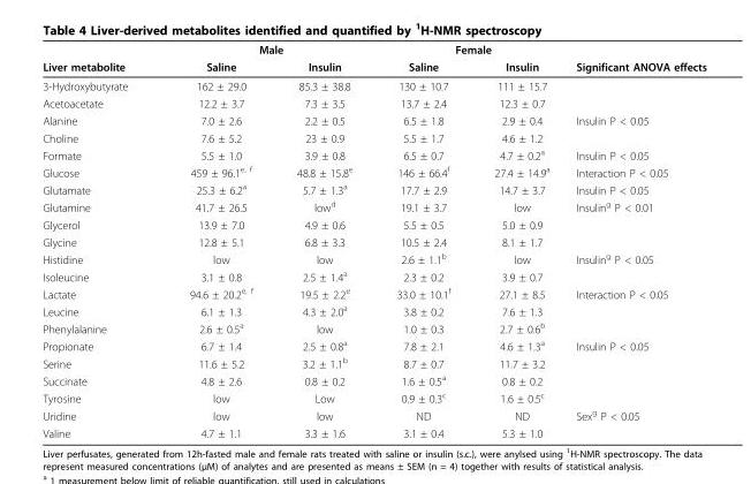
<table><thead><tr><td rowspan="2">Liver metabolite</td><td colspan="2">Male</td><td colspan="2">Female</td><td rowspan="2">Significant ANOVA effects</td></tr><tr><td>Saline</td><td>Insulin</td><td>Saline</td><td>Insulin</td></tr></thead><tbody><tr><td>3-Hydroxybutyrate</td><td>162 ± 29.0</td><td>85.3 ± 38.8</td><td>130 ± 10.7</td><td>111 ± 15.7</td><td></td></tr><tr><td>Acetoacetate</td><td>12.2 ± 3.7</td><td>7.3 ± 3.5</td><td>13.7 ± 2.4</td><td>12.3 ± 0.7</td><td></td></tr><tr><td>Alanine</td><td>7.0 ± 2.6</td><td>2.2 ± 0.5</td><td>6.5 ± 1.8</td><td>2.9 ± 0.4</td><td>Insulin P &lt; 0.05</td></tr><tr><td>Choline</td><td>7.6 ± 5.2</td><td>23 ± 0.9</td><td>5.5 ± 1.7</td><td>4.6 ± 1.2</td><td></td></tr><tr><td>Formate</td><td>5.5 ± 1.0</td><td>3.9 ± 0.8</td><td>6.5 ± 0.7</td><td>4.7 ± 0.2<sup>a</sup></td><td>Insulin P &lt; 0.05</td></tr><tr><td>Glucose</td><td>459 ± 96.1<sup>e, f</sup></td><td>48.8 ± 15.8<sup>e</sup></td><td>146 ± 66.4<sup>f</sup></td><td>27.4 ± 14.9<sup>a</sup></td><td>Interaction P &lt; 0.05</td></tr><tr><td>Glutamate</td><td>25.3 ± 6.2<sup>a</sup></td><td>5.7 ± 1.3<sup>a</sup></td><td>17.7 ± 2.9</td><td>14.7 ± 3.7</td><td>Insulin P &lt; 0.05</td></tr><tr><td>Glutamine</td><td>41.7 ± 26.5</td><td>low<sup>d</sup></td><td>19.1 ± 3.7</td><td>low</td><td>Insulin<sup>g</sup> P &lt; 0.01</td></tr><tr><td>Glycerol</td><td>13.9 ± 7.0</td><td>4.9 ± 0.6</td><td>5.5 ± 0.5</td><td>5.0 ± 0.9</td><td></td></tr><tr><td>Glycine</td><td>12.8 ± 5.1</td><td>6.8 ± 3.3</td><td>10.5 ± 2.4</td><td>8.1 ± 1.7</td><td></td></tr><tr><td>Histidine</td><td>low</td><td>low</td><td>2.6 ± 1.1<sup>b</sup></td><td>low</td><td>Insulin<sup>g</sup> P &lt; 0.05</td></tr><tr><td>Isoleucine</td><td>3.1 ± 0.8</td><td>2.5 ± 1.4<sup>a</sup></td><td>2.3 ± 0.2</td><td>3.9 ± 0.7</td><td></td></tr><tr><td>Lactate</td><td>94.6 ± 20.2<sup>e, f</sup></td><td>19.5 ± 2.2<sup>e</sup></td><td>33.0 ± 10.1<sup>f</sup></td><td>27.1 ± 8.5</td><td>Interaction P &lt; 0.05</td></tr><tr><td>Leucine</td><td>6.1 ± 1.3</td><td>4.3 ± 2.0<sup>a</sup></td><td>3.8 ± 0.2</td><td>7.6 ± 1.3</td><td></td></tr><tr><td>Phenylalanine</td><td>2.6 ± 0.5<sup>a</sup></td><td>low</td><td>1.0 ± 0.3</td><td>2.7 ± 0.6<sup>b</sup></td><td></td></tr><tr><td>Propionate</td><td>6.7 ± 1.4</td><td>2.5 ± 0.8<sup>a</sup></td><td>7.8 ± 2.1</td><td>4.6 ± 1.3<sup>a</sup></td><td>Insulin P &lt; 0.05</td></tr><tr><td>Serine</td><td>11.6 ± 5.2</td><td>3.2 ± 1.1<sup>b</sup></td><td>8.7 ± 0.7</td><td>11.7 ± 3.2</td><td></td></tr><tr><td>Succinate</td><td>4.8 ± 2.6</td><td>0.8 ± 0.2</td><td>1.6 ± 0.5<sup>a</sup></td><td>0.8 ± 0.2</td><td></td></tr><tr><td>Tyrosine</td><td>low</td><td>Low</td><td>0.9 ± 0.3<sup>c</sup></td><td>1.6 ± 0.5<sup>c</sup></td><td></td></tr><tr><td>Uridine</td><td>low</td><td>low</td><td>ND</td><td>ND</td><td>Sex<sup>g</sup> P &lt; 0.05</td></tr><tr><td>Valine</td><td>4.7 ± 1.1</td><td>3.3 ± 1.6</td><td>3.1 ± 0.4</td><td>5.3 ± 1.0</td><td></td></tr></tbody></table>